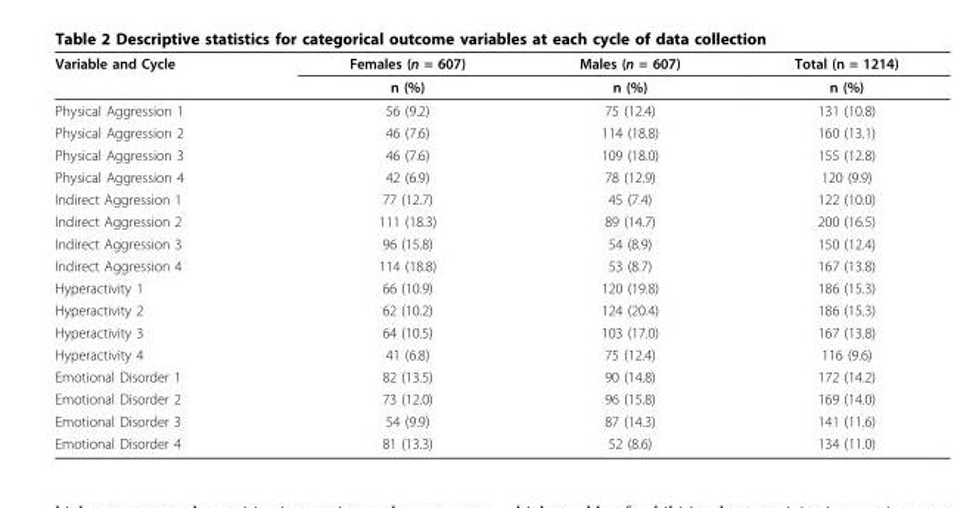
<table><thead><tr><td rowspan="2">Variable and Cycle</td><td rowspan="2">Females (n = 607) n (%)</td><td rowspan="2">Males (n = 607) n (%)</td><td rowspan="2">Total (n = 1214) n (%)</td></tr><tr></tr></thead><tbody><tr><td>Physical Aggression 1</td><td>56 (9.2)</td><td>75 (12.4)</td><td>131 (10.8)</td></tr><tr><td>Physical Aggression 2</td><td>46 (7.6)</td><td>114 (18.8)</td><td>160 (13.1)</td></tr><tr><td>Physical Aggression 3</td><td>46 (7.6)</td><td>109 (18.0)</td><td>155 (12.8)</td></tr><tr><td>Physical Aggression 4</td><td>42 (6.9)</td><td>78 (12.9)</td><td>120 (9.9)</td></tr><tr><td>Indirect Aggression 1</td><td>77 (12.7)</td><td>45 (7.4)</td><td>122 (10.0)</td></tr><tr><td>Indirect Aggression 2</td><td>111 (18.3)</td><td>89 (14.7)</td><td>200 (16.5)</td></tr><tr><td>Indirect Aggression 3</td><td>96 (15.8)</td><td>54 (8.9)</td><td>150 (12.4)</td></tr><tr><td>Indirect Aggression 4</td><td>114 (18.8)</td><td>53 (8.7)</td><td>167 (13.8)</td></tr><tr><td>Hyperactivity 1</td><td>66 (10.9)</td><td>120 (19.8)</td><td>186 (15.3)</td></tr><tr><td>Hyperactivity 2</td><td>62 (10.2)</td><td>124 (20.4)</td><td>186 (15.3)</td></tr><tr><td>Hyperactivity 3</td><td>64 (10.5)</td><td>103 (17.0)</td><td>167 (13.8)</td></tr><tr><td>Hyperactivity 4</td><td>41 (6.8)</td><td>75 (12.4)</td><td>116 (9.6)</td></tr><tr><td>Emotional Disorder 1</td><td>82 (13.5)</td><td>90 (14.8)</td><td>172 (14.2)</td></tr><tr><td>Emotional Disorder 2</td><td>73 (12.0)</td><td>96 (15.8)</td><td>169 (14.0)</td></tr><tr><td>Emotional Disorder 3</td><td>54 (9.9)</td><td>87 (14.3)</td><td>141 (11.6)</td></tr><tr><td>Emotional Disorder 4</td><td>81 (13.3)</td><td>52 (8.6)</td><td>134 (11.0)</td></tr></tbody></table>